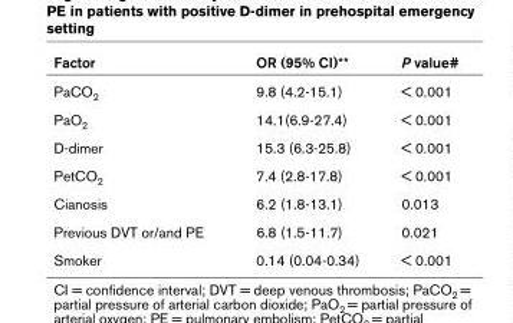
<table><thead><tr><td>Factor</td><td>OR (95% CI)**</td><td>P value#</td></tr></thead><tbody><tr><td>PaCO<sub>2</sub></td><td>9.8 (4.2-15.1)</td><td>&lt; 0.001</td></tr><tr><td>PaO<sub>2</sub></td><td>14.1(6.9-27.4)</td><td>&lt; 0.001</td></tr><tr><td>D-dimer</td><td>15.3 (6.3-25.8)</td><td>&lt; 0.001</td></tr><tr><td>PetCO<sub>2</sub></td><td>7.4 (2.8-17.8)</td><td>&lt; 0.001</td></tr><tr><td>Cianosis</td><td>6.2 (1.8-13.1)</td><td>0.013</td></tr><tr><td>Previous DVT or/and PE</td><td>6.8 (1.5-11.7)</td><td>0.021</td></tr><tr><td>Smoker</td><td>0.14 (0.04-0.34)</td><td>&lt; 0.001</td></tr></tbody></table>